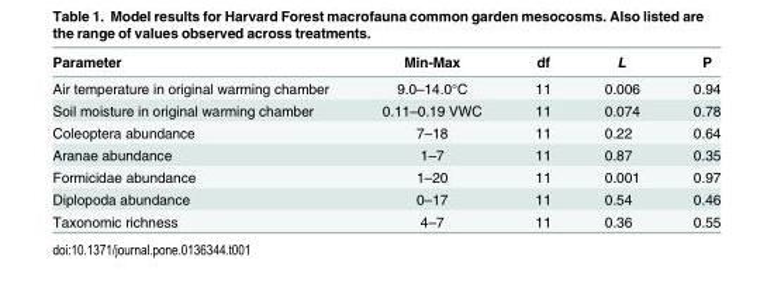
<table><thead><tr><td>Parameter</td><td>Min-Max</td><td>df</td><td>L</td><td>P</td></tr></thead><tbody><tr><td>Air temperature in original warming chamber</td><td>9.0–14.0°C</td><td>11</td><td>0.006</td><td>0.94</td></tr><tr><td>Soil moisture in original warming chamber</td><td>0.11–0.19 VWC</td><td>11</td><td>0.074</td><td>0.78</td></tr><tr><td>Coleoptera abundance</td><td>7–18</td><td>11</td><td>0.22</td><td>0.64</td></tr><tr><td>Aranae abundance</td><td>1–7</td><td>11</td><td>0.87</td><td>0.35</td></tr><tr><td>Formicidae abundance</td><td>1–20</td><td>11</td><td>0.001</td><td>0.97</td></tr><tr><td>Diplopoda abundance</td><td>0–17</td><td>11</td><td>0.54</td><td>0.46</td></tr><tr><td>Taxonomic richness</td><td>4–7</td><td>11</td><td>0.36</td><td>0.55</td></tr></tbody></table>